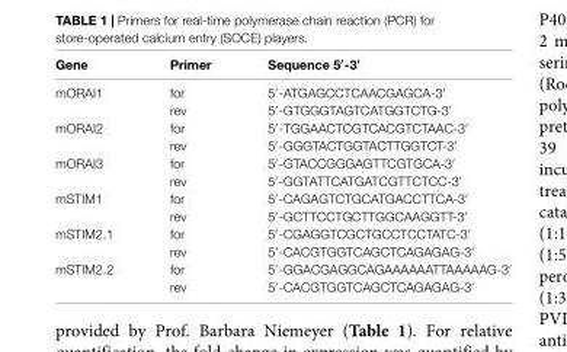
<table><thead><tr><td>Gene</td><td>Primer</td><td>Sequence 5′-3′</td></tr></thead><tbody><tr><td rowspan="2">mORAI1</td><td>for</td><td>5′-ATGAGCCTCAACGAGCA-3′</td></tr><tr><td>rev</td><td>5′-GTGGGTAGTCATGGTCTG-3′</td></tr><tr><td rowspan="2">mORAI2</td><td>for</td><td>5′-TGGAACTCGTCACGTCTAAC-3′</td></tr><tr><td>rev</td><td>5′-GGGTACTGGTACTTGGTCT-3′</td></tr><tr><td rowspan="2">mORAI3</td><td>for</td><td>5′-GTACCGGGAGTTCGTGCA-3′</td></tr><tr><td>rev</td><td>5′-GGTATTCATGATCGTTCTCC-3′</td></tr><tr><td rowspan="2">mSTIM1</td><td>for</td><td>5′-CAGAGTCTGCATGACCTTCA-3′</td></tr><tr><td>rev</td><td>5′-GCTTCCTGCTTGGCAAGGTT-3′</td></tr><tr><td rowspan="2">mSTIM2.1</td><td>for</td><td>5′-CGAGGTCGCTGCCTCCTATC-3′</td></tr><tr><td>rev</td><td>5′-CACGTGGTCAGCTCAGAGAG-3′</td></tr><tr><td rowspan="2">mSTIM2.2</td><td>for</td><td>5′-GGACGAGGCAGAAAAAATTAAAAAG-3′</td></tr><tr><td>rev</td><td>5′-CACGTGGTCAGCTCAGAGAG-3′</td></tr></tbody></table>